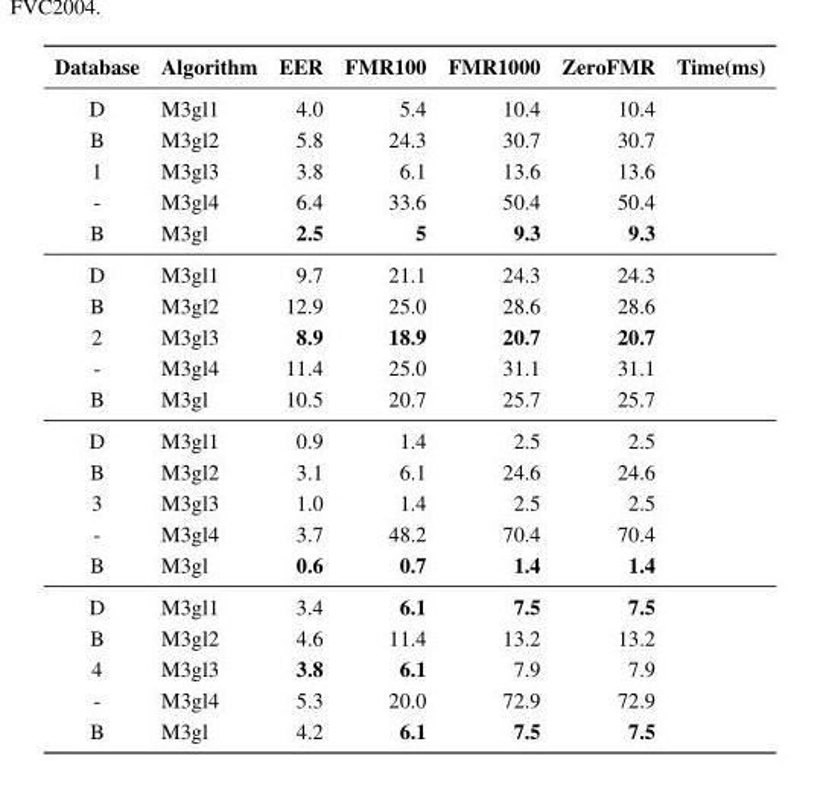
<table><thead><tr><td>Database</td><td>Algorithm</td><td>EER</td><td>FMR100</td><td>FMR1000</td><td>ZeroFMR</td><td>Time(ms)</td></tr></thead><tbody><tr><td>D</td><td>M3gl1</td><td>4.0</td><td>5.4</td><td>10.4</td><td>10.4</td><td></td></tr><tr><td>B</td><td>M3gl2</td><td>5.8</td><td>24.3</td><td>30.7</td><td>30.7</td><td></td></tr><tr><td>1</td><td>M3gl3</td><td>3.8</td><td>6.1</td><td>13.6</td><td>13.6</td><td></td></tr><tr><td>-</td><td>M3gl4</td><td>6.4</td><td>33.6</td><td>50.4</td><td>50.4</td><td></td></tr><tr><td>B</td><td>M3gl</td><td>2.5</td><td>5</td><td>9.3</td><td>9.3</td><td></td></tr><tr><td>D</td><td>M3gl1</td><td>9.7</td><td>21.1</td><td>24.3</td><td>24.3</td><td></td></tr><tr><td>B</td><td>M3gl2</td><td>12.9</td><td>25.0</td><td>28.6</td><td>28.6</td><td></td></tr><tr><td>2</td><td>M3gl3</td><td>8.9</td><td>18.9</td><td>20.7</td><td>20.7</td><td></td></tr><tr><td>-</td><td>M3gl4</td><td>11.4</td><td>25.0</td><td>31.1</td><td>31.1</td><td></td></tr><tr><td>B</td><td>M3gl</td><td>10.5</td><td>20.7</td><td>25.7</td><td>25.7</td><td></td></tr><tr><td>D</td><td>M3gl1</td><td>0.9</td><td>1.4</td><td>2.5</td><td>2.5</td><td></td></tr><tr><td>B</td><td>M3gl2</td><td>3.1</td><td>6.1</td><td>24.6</td><td>24.6</td><td></td></tr><tr><td>3</td><td>M3gl3</td><td>1.0</td><td>1.4</td><td>2.5</td><td>2.5</td><td></td></tr><tr><td>-</td><td>M3gl4</td><td>3.7</td><td>48.2</td><td>70.4</td><td>70.4</td><td></td></tr><tr><td>B</td><td>M3gl</td><td>0.6</td><td>0.7</td><td>1.4</td><td>1.4</td><td></td></tr><tr><td>D</td><td>M3gl1</td><td>3.4</td><td>6.1</td><td>7.5</td><td>7.5</td><td></td></tr><tr><td>B</td><td>M3gl2</td><td>4.6</td><td>11.4</td><td>13.2</td><td>13.2</td><td></td></tr><tr><td>4</td><td>M3gl3</td><td>3.8</td><td>6.1</td><td>7.9</td><td>7.9</td><td></td></tr><tr><td>-</td><td>M3gl4</td><td>5.3</td><td>20.0</td><td>72.9</td><td>72.9</td><td></td></tr><tr><td>B</td><td>M3gl</td><td>4.2</td><td>6.1</td><td>7.5</td><td>7.5</td><td></td></tr></tbody></table>